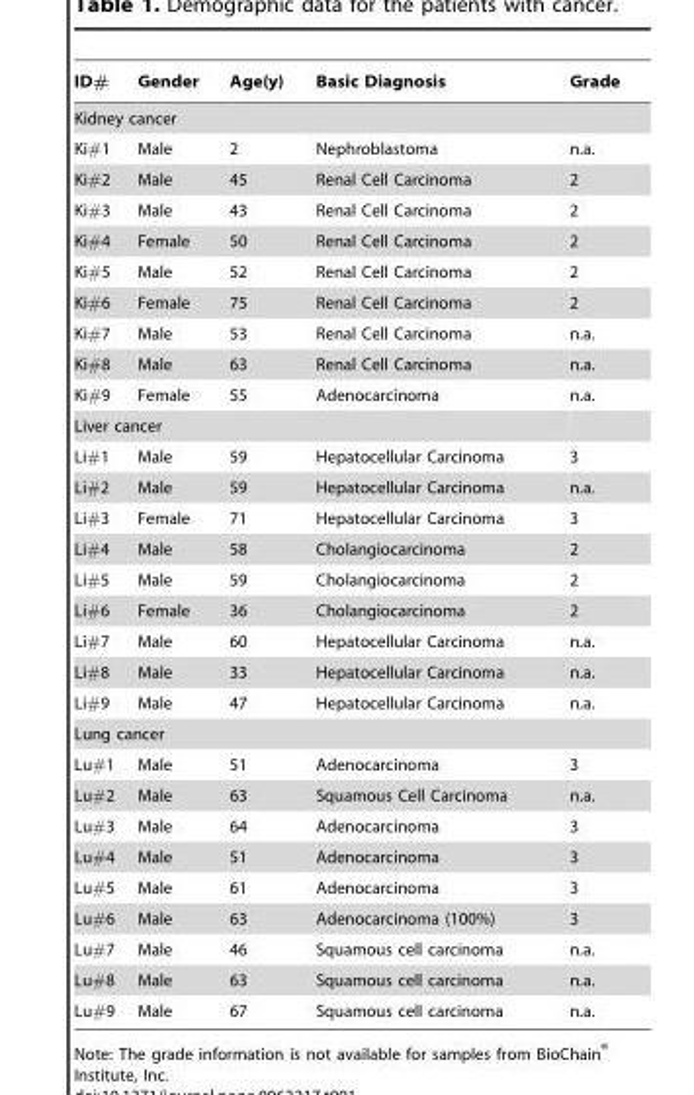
<table><thead><tr><td>ID#</td><td>Gender</td><td>Age(y)</td><td>Basic Diagnosis</td><td>Grade</td></tr></thead><tbody><tr><td colspan="5">Kidney cancer</td></tr><tr><td>Ki#1</td><td>Male</td><td>2</td><td>Nephroblastoma</td><td>n.a.</td></tr><tr><td>Ki#2</td><td>Male</td><td>45</td><td>Renal Cell Carcinoma</td><td>2</td></tr><tr><td>Ki#3</td><td>Male</td><td>43</td><td>Renal Cell Carcinoma</td><td>2</td></tr><tr><td>Ki#4</td><td>Female</td><td>50</td><td>Renal Cell Carcinoma</td><td>2</td></tr><tr><td>Ki#5</td><td>Male</td><td>52</td><td>Renal Cell Carcinoma</td><td>2</td></tr><tr><td>Ki#6</td><td>Female</td><td>75</td><td>Renal Cell Carcinoma</td><td>2</td></tr><tr><td>Ki#7</td><td>Male</td><td>53</td><td>Renal Cell Carcinoma</td><td>n.a.</td></tr><tr><td>Ki#8</td><td>Male</td><td>63</td><td>Renal Cell Carcinoma</td><td>n.a.</td></tr><tr><td>Ki#9</td><td>Female</td><td>55</td><td>Adenocarcinoma</td><td>n.a.</td></tr><tr><td colspan="5">Liver cancer</td></tr><tr><td>Li#1</td><td>Male</td><td>59</td><td>Hepatocellular Carcinoma</td><td>3</td></tr><tr><td>Li#2</td><td>Male</td><td>59</td><td>Hepatocellular Carcinoma</td><td>n.a.</td></tr><tr><td>Li#3</td><td>Female</td><td>71</td><td>Hepatocellular Carcinoma</td><td>3</td></tr><tr><td>Li#4</td><td>Male</td><td>58</td><td>Cholangiocarcinoma</td><td>2</td></tr><tr><td>Li#5</td><td>Male</td><td>59</td><td>Cholangiocarcinoma</td><td>2</td></tr><tr><td>Li#6</td><td>Female</td><td>36</td><td>Cholangiocarcinoma</td><td>2</td></tr><tr><td>Li#7</td><td>Male</td><td>60</td><td>Hepatocellular Carcinoma</td><td>n.a.</td></tr><tr><td>Li#8</td><td>Male</td><td>33</td><td>Hepatocellular Carcinoma</td><td>n.a.</td></tr><tr><td>Li#9</td><td>Male</td><td>47</td><td>Hepatocellular Carcinoma</td><td>n.a.</td></tr><tr><td colspan="5">Lung cancer</td></tr><tr><td>Lu#1</td><td>Male</td><td>51</td><td>Adenocarcinoma</td><td>3</td></tr><tr><td>Lu#2</td><td>Male</td><td>63</td><td>Squamous Cell Carcinoma</td><td>n.a.</td></tr><tr><td>Lu#3</td><td>Male</td><td>64</td><td>Adenocarcinoma</td><td>3</td></tr><tr><td>Lu#4</td><td>Male</td><td>51</td><td>Adenocarcinoma</td><td>3</td></tr><tr><td>Lu#5</td><td>Male</td><td>61</td><td>Adenocarcinoma</td><td>3</td></tr><tr><td>Lu#6</td><td>Male</td><td>63</td><td>Adenocarcinoma (100%)</td><td>3</td></tr><tr><td>Lu#7</td><td>Male</td><td>46</td><td>Squamous cell carcinoma</td><td>n.a.</td></tr><tr><td>Lu#8</td><td>Male</td><td>63</td><td>Squamous cell carcinoma</td><td>n.a.</td></tr><tr><td>Lu#9</td><td>Male</td><td>67</td><td>Squamous cell carcinoma</td><td>n.a.</td></tr></tbody></table>